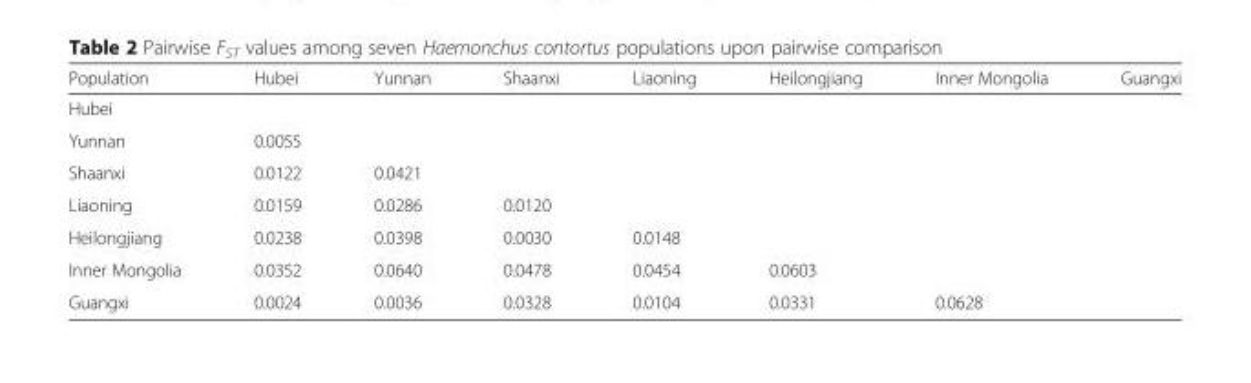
<table><thead><tr><td>Population</td><td>Hubei</td><td>Yunnan</td><td>Shaanxi</td><td>Liaoning</td><td>Heilongjiang</td><td>Inner Mongolia</td><td>Guangxi</td></tr></thead><tbody><tr><td colspan="8">Hubei</td></tr><tr><td>Yunnan</td><td>0.0055</td><td></td><td></td><td></td><td></td><td></td><td></td></tr><tr><td>Shaanxi</td><td>0.0122</td><td>0.0421</td><td></td><td></td><td></td><td></td><td></td></tr><tr><td>Liaoning</td><td>0.0159</td><td>0.0286</td><td>0.0120</td><td></td><td></td><td></td><td></td></tr><tr><td>Heilongjiang</td><td>0.0238</td><td>0.0398</td><td>0.0030</td><td>0.0148</td><td></td><td></td><td></td></tr><tr><td>Inner Mongolia</td><td>0.0352</td><td>0.0640</td><td>0.0478</td><td>0.0454</td><td>0.0603</td><td></td><td></td></tr><tr><td>Guangxi</td><td>0.0024</td><td>0.0036</td><td>0.0328</td><td>0.0104</td><td>0.0331</td><td>0.0628</td><td></td></tr></tbody></table>